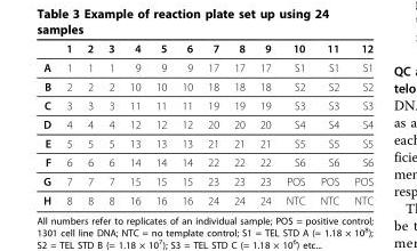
<table><thead><tr><td></td><td>1</td><td>2</td><td>3</td><td>4</td><td>5</td><td>6</td><td>7</td><td>8</td><td>9</td><td>10</td><td>11</td><td>12</td></tr></thead><tbody><tr><td>A</td><td>1</td><td>1</td><td>1</td><td>9</td><td>9</td><td>9</td><td>17</td><td>17</td><td>17</td><td>S1</td><td>S1</td><td>S1</td></tr><tr><td>B</td><td>2</td><td>2</td><td>2</td><td>10</td><td>10</td><td>10</td><td>18</td><td>18</td><td>18</td><td>S2</td><td>S2</td><td>S2</td></tr><tr><td>C</td><td>3</td><td>3</td><td>3</td><td>11</td><td>11</td><td>11</td><td>19</td><td>19</td><td>19</td><td>S3</td><td>S3</td><td>S3</td></tr><tr><td>D</td><td>4</td><td>4</td><td>4</td><td>12</td><td>12</td><td>12</td><td>20</td><td>20</td><td>20</td><td>S4</td><td>S4</td><td>S4</td></tr><tr><td>E</td><td>5</td><td>5</td><td>5</td><td>13</td><td>13</td><td>13</td><td>21</td><td>21</td><td>21</td><td>S5</td><td>S5</td><td>S5</td></tr><tr><td>F</td><td>6</td><td>6</td><td>6</td><td>14</td><td>14</td><td>14</td><td>22</td><td>22</td><td>22</td><td>S6</td><td>S6</td><td>S6</td></tr><tr><td>G</td><td>7</td><td>7</td><td>7</td><td>15</td><td>15</td><td>15</td><td>23</td><td>23</td><td>23</td><td>POS</td><td>POS</td><td>POS</td></tr><tr><td>H</td><td>8</td><td>8</td><td>8</td><td>16</td><td>16</td><td>16</td><td>24</td><td>24</td><td>24</td><td>NTC</td><td>NTC</td><td>NTC</td></tr></tbody></table>